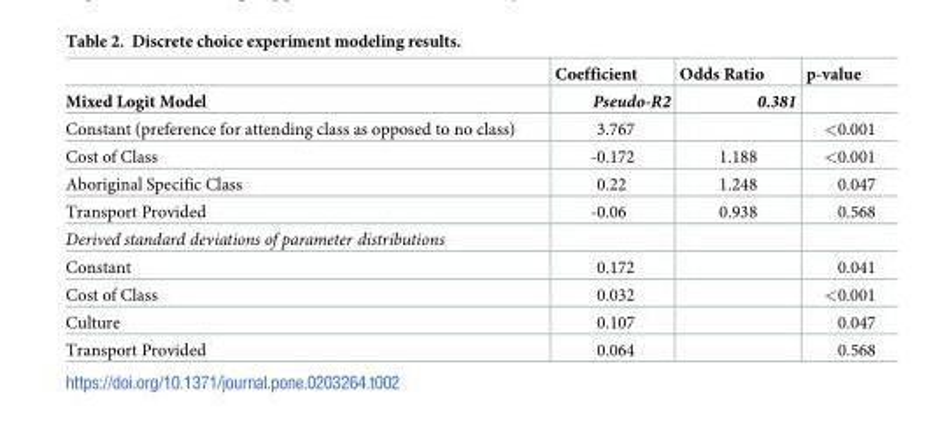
<table><thead><tr><td rowspan="2">Mixed Logit Model</td><td rowspan="2">Coefficient Pseudo-R2</td><td rowspan="2">Odds Ratio 0.381</td><td rowspan="2">p-value</td></tr><tr></tr></thead><tbody><tr><td>Constant (preference for attending class as opposed to no class)</td><td>3.767</td><td></td><td>&lt;0.001</td></tr><tr><td>Cost of Class</td><td>-0.172</td><td>1.188</td><td>&lt;0.001</td></tr><tr><td>Aboriginal Specific Class</td><td>0.22</td><td>1.248</td><td>0.047</td></tr><tr><td>Transport Provided</td><td>-0.06</td><td>0.938</td><td>0.568</td></tr><tr><td colspan="4">Derived standard deviations of parameter distributions</td></tr><tr><td>Constant</td><td>0.172</td><td></td><td>0.041</td></tr><tr><td>Cost of Class</td><td>0.032</td><td></td><td>&lt;0.001</td></tr><tr><td>Culture</td><td>0.107</td><td></td><td>0.047</td></tr><tr><td>Transport Provided</td><td>0.064</td><td></td><td>0.568</td></tr></tbody></table>